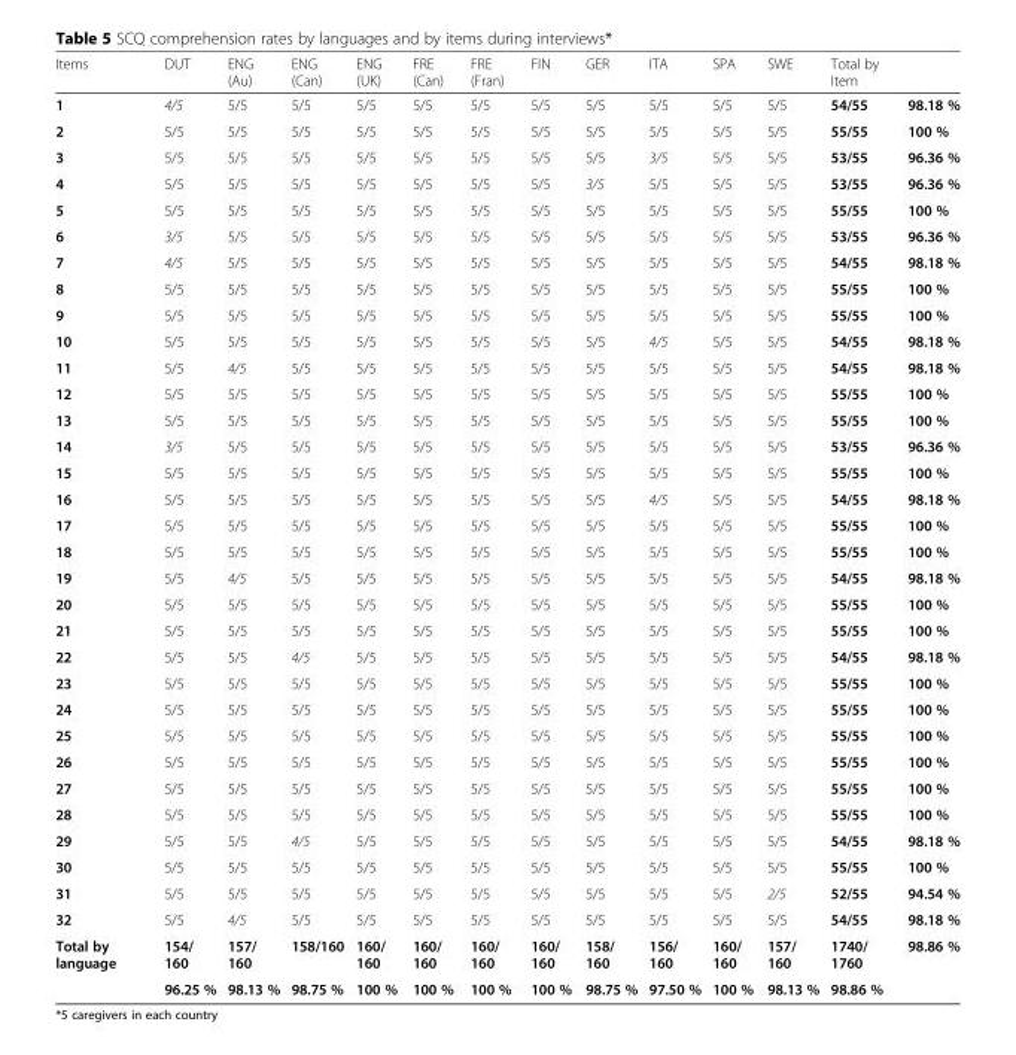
<table><thead><tr><td>Items</td><td>DUT</td><td>ENG (Au)</td><td>ENG (Can)</td><td>ENG (UK)</td><td>FRE (Can)</td><td>FRE (Fran)</td><td>FIN</td><td>GER</td><td>ITA</td><td>SPA</td><td>SWE</td><td>Total by Item</td><td></td></tr></thead><tbody><tr><td>1</td><td>4/5</td><td>5/5</td><td>5/5</td><td>5/5</td><td>5/5</td><td>5/5</td><td>5/5</td><td>5/5</td><td>5/5</td><td>5/5</td><td>5/5</td><td>54/55</td><td>98.18 %</td></tr><tr><td>2</td><td>5/5</td><td>5/5</td><td>5/5</td><td>5/5</td><td>5/5</td><td>5/5</td><td>5/5</td><td>5/5</td><td>5/5</td><td>5/5</td><td>5/5</td><td>55/55</td><td>100 %</td></tr><tr><td>3</td><td>5/5</td><td>5/5</td><td>5/5</td><td>5/5</td><td>5/5</td><td>5/5</td><td>5/5</td><td>5/5</td><td>3/5</td><td>5/5</td><td>5/5</td><td>53/55</td><td>96.36 %</td></tr><tr><td>4</td><td>5/5</td><td>5/5</td><td>5/5</td><td>5/5</td><td>5/5</td><td>5/5</td><td>5/5</td><td>3/5</td><td>5/5</td><td>5/5</td><td>5/5</td><td>53/55</td><td>96.36 %</td></tr><tr><td>5</td><td>5/5</td><td>5/5</td><td>5/5</td><td>5/5</td><td>5/5</td><td>5/5</td><td>5/5</td><td>5/5</td><td>5/5</td><td>5/5</td><td>5/5</td><td>55/55</td><td>100 %</td></tr><tr><td>6</td><td>3/5</td><td>5/5</td><td>5/5</td><td>5/5</td><td>5/5</td><td>5/5</td><td>5/5</td><td>5/5</td><td>5/5</td><td>5/5</td><td>5/5</td><td>53/55</td><td>96.36 %</td></tr><tr><td>7</td><td>4/5</td><td>5/5</td><td>5/5</td><td>5/5</td><td>5/5</td><td>5/5</td><td>5/5</td><td>5/5</td><td>5/5</td><td>5/5</td><td>5/5</td><td>54/55</td><td>98.18 %</td></tr><tr><td>8</td><td>5/5</td><td>5/5</td><td>5/5</td><td>5/5</td><td>5/5</td><td>5/5</td><td>5/5</td><td>5/5</td><td>5/5</td><td>5/5</td><td>5/5</td><td>55/55</td><td>100 %</td></tr><tr><td>9</td><td>5/5</td><td>5/5</td><td>5/5</td><td>5/5</td><td>5/5</td><td>5/5</td><td>5/5</td><td>5/5</td><td>5/5</td><td>5/5</td><td>5/5</td><td>55/55</td><td>100 %</td></tr><tr><td>10</td><td>5/5</td><td>5/5</td><td>5/5</td><td>5/5</td><td>5/5</td><td>5/5</td><td>5/5</td><td>5/5</td><td>4/5</td><td>5/5</td><td>5/5</td><td>54/55</td><td>98.18 %</td></tr><tr><td>11</td><td>5/5</td><td>4/5</td><td>5/5</td><td>5/5</td><td>5/5</td><td>5/5</td><td>5/5</td><td>5/5</td><td>5/5</td><td>5/5</td><td>5/5</td><td>54/55</td><td>98.18 %</td></tr><tr><td>12</td><td>5/5</td><td>5/5</td><td>5/5</td><td>5/5</td><td>5/5</td><td>5/5</td><td>5/5</td><td>5/5</td><td>5/5</td><td>5/5</td><td>5/5</td><td>55/55</td><td>100 %</td></tr><tr><td>13</td><td>5/5</td><td>5/5</td><td>5/5</td><td>5/5</td><td>5/5</td><td>5/5</td><td>5/5</td><td>5/5</td><td>5/5</td><td>5/5</td><td>5/5</td><td>55/55</td><td>100 %</td></tr><tr><td>14</td><td>3/5</td><td>5/5</td><td>5/5</td><td>5/5</td><td>5/5</td><td>5/5</td><td>5/5</td><td>5/5</td><td>5/5</td><td>5/5</td><td>5/5</td><td>53/55</td><td>96.36 %</td></tr><tr><td>15</td><td>5/5</td><td>5/5</td><td>5/5</td><td>5/5</td><td>5/5</td><td>5/5</td><td>5/5</td><td>5/5</td><td>5/5</td><td>5/5</td><td>5/5</td><td>55/55</td><td>100 %</td></tr><tr><td>16</td><td>5/5</td><td>5/5</td><td>5/5</td><td>5/5</td><td>5/5</td><td>5/5</td><td>5/5</td><td>5/5</td><td>4/5</td><td>5/5</td><td>5/5</td><td>54/55</td><td>98.18 %</td></tr><tr><td>17</td><td>5/5</td><td>5/5</td><td>5/5</td><td>5/5</td><td>5/5</td><td>5/5</td><td>5/5</td><td>5/5</td><td>5/5</td><td>5/5</td><td>5/5</td><td>55/55</td><td>100 %</td></tr><tr><td>18</td><td>5/5</td><td>5/5</td><td>5/5</td><td>5/5</td><td>5/5</td><td>5/5</td><td>5/5</td><td>5/5</td><td>5/5</td><td>5/5</td><td>5/5</td><td>55/55</td><td>100 %</td></tr><tr><td>19</td><td>5/5</td><td>4/5</td><td>5/5</td><td>5/5</td><td>5/5</td><td>5/5</td><td>5/5</td><td>5/5</td><td>5/5</td><td>5/5</td><td>5/5</td><td>54/55</td><td>98.18 %</td></tr><tr><td>20</td><td>5/5</td><td>5/5</td><td>5/5</td><td>5/5</td><td>5/5</td><td>5/5</td><td>5/5</td><td>5/5</td><td>5/5</td><td>5/5</td><td>5/5</td><td>55/55</td><td>100 %</td></tr><tr><td>21</td><td>5/5</td><td>5/5</td><td>5/5</td><td>5/5</td><td>5/5</td><td>5/5</td><td>5/5</td><td>5/5</td><td>5/5</td><td>5/5</td><td>5/5</td><td>55/55</td><td>100 %</td></tr><tr><td>22</td><td>5/5</td><td>5/5</td><td>4/5</td><td>5/5</td><td>5/5</td><td>5/5</td><td>5/5</td><td>5/5</td><td>5/5</td><td>5/5</td><td>5/5</td><td>54/55</td><td>98.18 %</td></tr><tr><td>23</td><td>5/5</td><td>5/5</td><td>5/5</td><td>5/5</td><td>5/5</td><td>5/5</td><td>5/5</td><td>5/5</td><td>5/5</td><td>5/5</td><td>5/5</td><td>55/55</td><td>100 %</td></tr><tr><td>24</td><td>5/5</td><td>5/5</td><td>5/5</td><td>5/5</td><td>5/5</td><td>5/5</td><td>5/5</td><td>5/5</td><td>5/5</td><td>5/5</td><td>5/5</td><td>55/55</td><td>100 %</td></tr><tr><td>25</td><td>5/5</td><td>5/5</td><td>5/5</td><td>5/5</td><td>5/5</td><td>5/5</td><td>5/5</td><td>5/5</td><td>5/5</td><td>5/5</td><td>5/5</td><td>55/55</td><td>100 %</td></tr><tr><td>26</td><td>5/5</td><td>5/5</td><td>5/5</td><td>5/5</td><td>5/5</td><td>5/5</td><td>5/5</td><td>5/5</td><td>5/5</td><td>5/5</td><td>5/5</td><td>55/55</td><td>100 %</td></tr><tr><td>27</td><td>5/5</td><td>5/5</td><td>5/5</td><td>5/5</td><td>5/5</td><td>5/5</td><td>5/5</td><td>5/5</td><td>5/5</td><td>5/5</td><td>5/5</td><td>55/55</td><td>100 %</td></tr><tr><td>28</td><td>5/5</td><td>5/5</td><td>5/5</td><td>5/5</td><td>5/5</td><td>5/5</td><td>5/5</td><td>5/5</td><td>5/5</td><td>5/5</td><td>5/5</td><td>55/55</td><td>100 %</td></tr><tr><td>29</td><td>5/5</td><td>5/5</td><td>4/5</td><td>5/5</td><td>5/5</td><td>5/5</td><td>5/5</td><td>5/5</td><td>5/5</td><td>5/5</td><td>5/5</td><td>54/55</td><td>98.18 %</td></tr><tr><td>30</td><td>5/5</td><td>5/5</td><td>5/5</td><td>5/5</td><td>5/5</td><td>5/5</td><td>5/5</td><td>5/5</td><td>5/5</td><td>5/5</td><td>5/5</td><td>55/55</td><td>100 %</td></tr><tr><td>31</td><td>5/5</td><td>5/5</td><td>5/5</td><td>5/5</td><td>5/5</td><td>5/5</td><td>5/5</td><td>5/5</td><td>5/5</td><td>5/5</td><td>2/5</td><td>52/55</td><td>94.54 %</td></tr><tr><td>32</td><td>5/5</td><td>4/5</td><td>5/5</td><td>5/5</td><td>5/5</td><td>5/5</td><td>5/5</td><td>5/5</td><td>5/5</td><td>5/5</td><td>5/5</td><td>54/55</td><td>98.18 %</td></tr><tr><td rowspan="2">Total by language</td><td>154/ 160</td><td>157/ 160</td><td>158/160</td><td>160/ 160</td><td>160/ 160</td><td>160/ 160</td><td>160/ 160</td><td>158/ 160</td><td>156/ 160</td><td>160/ 160</td><td>157/ 160</td><td>1740/ 1760</td><td>98.86 %</td></tr><tr><td>96.25 %</td><td>98.13 %</td><td>98.75 %</td><td>100 %</td><td>100 %</td><td>100 %</td><td>100 %</td><td>98.75 %</td><td>97.50 %</td><td>100 %</td><td>98.13 %</td><td>98.86 %</td><td></td></tr></tbody></table>